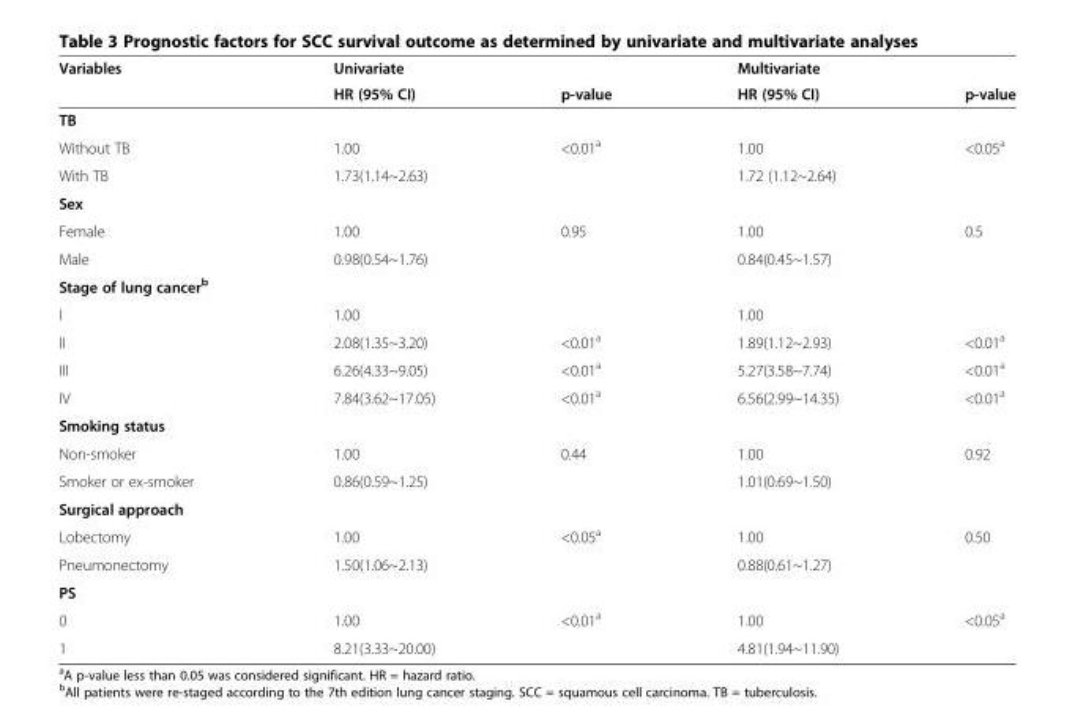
<table><thead><tr><td rowspan="2">Variables</td><td rowspan="2">Univariate HR (95% CI)</td><td rowspan="2">p-value</td><td rowspan="2">Multivariate HR (95% CI)</td><td rowspan="2">p-value</td></tr><tr></tr></thead><tbody><tr><td colspan="5">TB</td></tr><tr><td>Without TB</td><td>1.00</td><td>&lt;0.01<sup>a</sup></td><td>1.00</td><td>&lt;0.05<sup>a</sup></td></tr><tr><td>With TB</td><td>1.73(1.14~2.63)</td><td></td><td>1.72 (1.12~2.64)</td><td></td></tr><tr><td colspan="5">Sex</td></tr><tr><td>Female</td><td>1.00</td><td>0.95</td><td>1.00</td><td>0.5</td></tr><tr><td>Male</td><td>0.98(0.54~1.76)</td><td></td><td>0.84(0.45~1.57)</td><td></td></tr><tr><td colspan="5">Stage of lung cancer<sup>b</sup></td></tr><tr><td>I</td><td>1.00</td><td></td><td>1.00</td><td></td></tr><tr><td>II</td><td>2.08(1.35~3.20)</td><td>&lt;0.01<sup>a</sup></td><td>1.89(1.12~2.93)</td><td>&lt;0.01<sup>a</sup></td></tr><tr><td>III</td><td>6.26(4.33~9.05)</td><td>&lt;0.01<sup>a</sup></td><td>5.27(3.58~7.74)</td><td>&lt;0.01<sup>a</sup></td></tr><tr><td>IV</td><td>7.84(3.62~17.05)</td><td>&lt;0.01<sup>a</sup></td><td>6.56(2.99~14.35)</td><td>&lt;0.01<sup>a</sup></td></tr><tr><td colspan="5">Smoking status</td></tr><tr><td>Non-smoker</td><td>1.00</td><td>0.44</td><td>1.00</td><td>0.92</td></tr><tr><td>Smoker or ex-smoker</td><td>0.86(0.59~1.25)</td><td></td><td>1.01(0.69~1.50)</td><td></td></tr><tr><td colspan="5">Surgical approach</td></tr><tr><td>Lobectomy</td><td>1.00</td><td>&lt;0.05<sup>a</sup></td><td>1.00</td><td>0.50</td></tr><tr><td>Pneumonectomy</td><td>1.50(1.06~2.13)</td><td></td><td>0.88(0.61~1.27)</td><td></td></tr><tr><td colspan="5">PS</td></tr><tr><td>0</td><td>1.00</td><td>&lt;0.01<sup>a</sup></td><td>1.00</td><td>&lt;0.05<sup>a</sup></td></tr><tr><td>1</td><td>8.21(3.33~20.00)</td><td></td><td>4.81(1.94~11.90)</td><td></td></tr></tbody></table>